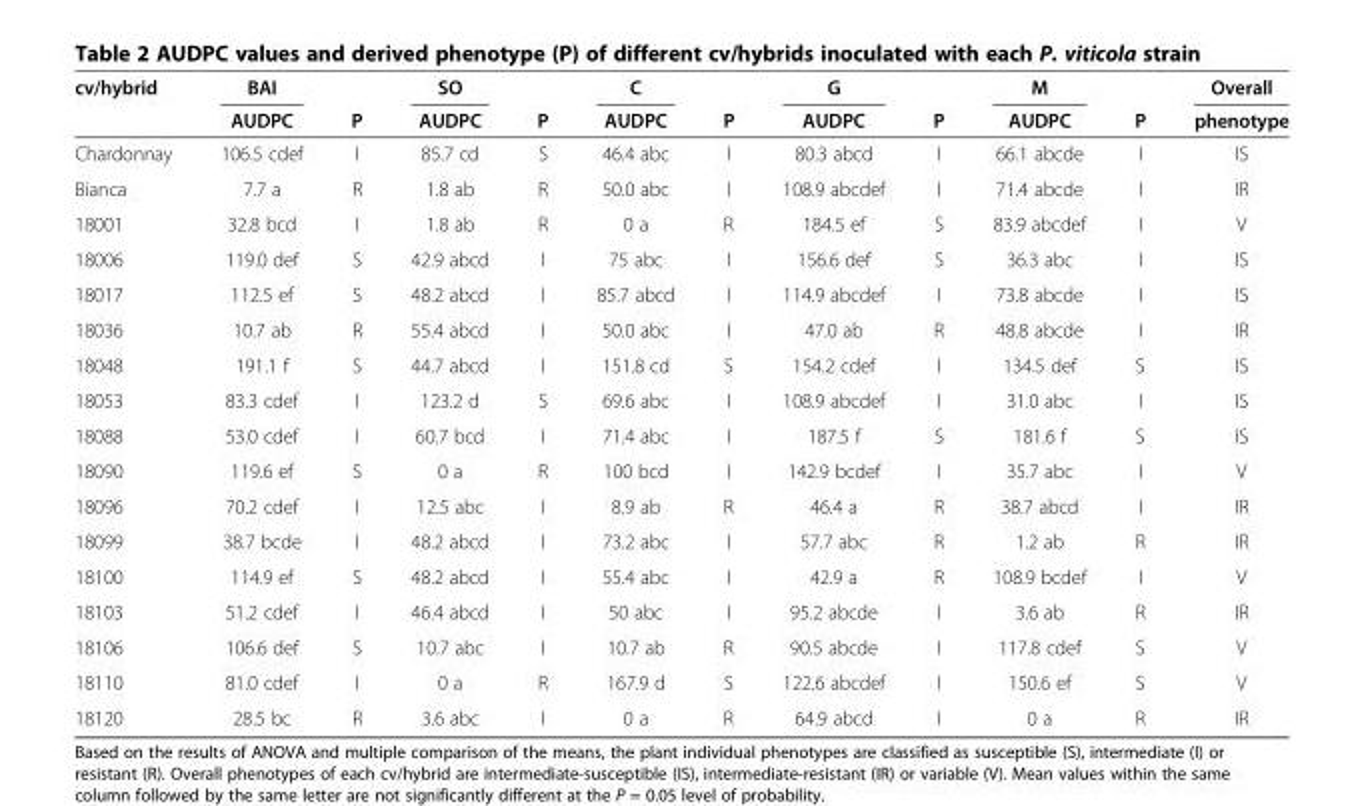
<table><thead><tr><td rowspan="2">cv/hybrid</td><td rowspan="2">BAI AUDPC</td><td rowspan="2">P</td><td rowspan="2">SO AUDPC</td><td rowspan="2">P</td><td rowspan="2">C AUDPC</td><td rowspan="2">P</td><td rowspan="2">G AUDPC</td><td rowspan="2">P</td><td rowspan="2">M AUDPC</td><td rowspan="2">P</td><td rowspan="2">Overall phenotype</td></tr><tr></tr></thead><tbody><tr><td>Chardonnay</td><td>106.5 cdef</td><td>I</td><td>85.7 cd</td><td>S</td><td>46.4 abc</td><td>I</td><td>80.3 abcd</td><td>I</td><td>66.1 abcde</td><td>I</td><td>IS</td></tr><tr><td>Bianca</td><td>7.7 a</td><td>R</td><td>1.8 ab</td><td>R</td><td>50.0 abc</td><td>I</td><td>108.9 abcdef</td><td>I</td><td>71.4 abcde</td><td>I</td><td>IR</td></tr><tr><td>18001</td><td>32.8 bcd</td><td>I</td><td>1.8 ab</td><td>R</td><td>0 a</td><td>R</td><td>184.5 ef</td><td>S</td><td>83.9 abcdef</td><td>I</td><td>V</td></tr><tr><td>18006</td><td>119.0 def</td><td>S</td><td>42.9 abcd</td><td>I</td><td>75 abc</td><td>I</td><td>156.6 def</td><td>S</td><td>36.3 abc</td><td>I</td><td>IS</td></tr><tr><td>18017</td><td>112.5 ef</td><td>S</td><td>48.2 abcd</td><td>I</td><td>85.7 abcd</td><td>I</td><td>114.9 abcdef</td><td>I</td><td>73.8 abcde</td><td>I</td><td>IS</td></tr><tr><td>18036</td><td>10.7 ab</td><td>R</td><td>55.4 abcd</td><td>I</td><td>50.0 abc</td><td>I</td><td>47.0 ab</td><td>R</td><td>48.8 abcde</td><td>I</td><td>IR</td></tr><tr><td>18048</td><td>191.1 f</td><td>S</td><td>44.7 abcd</td><td>I</td><td>151.8 cd</td><td>S</td><td>154.2 cdef</td><td>I</td><td>134.5 def</td><td>S</td><td>IS</td></tr><tr><td>18053</td><td>83.3 cdef</td><td>I</td><td>123.2 d</td><td>S</td><td>69.6 abc</td><td>I</td><td>108.9 abcdef</td><td>I</td><td>31.0 abc</td><td>I</td><td>IS</td></tr><tr><td>18088</td><td>53.0 cdef</td><td>I</td><td>60.7 bcd</td><td>I</td><td>71.4 abc</td><td>I</td><td>187.5 f</td><td>S</td><td>181.6 f</td><td>S</td><td>IS</td></tr><tr><td>18090</td><td>119.6 ef</td><td>S</td><td>0 a</td><td>R</td><td>100 bcd</td><td>I</td><td>142.9 bcdef</td><td>I</td><td>35.7 abc</td><td>I</td><td>V</td></tr><tr><td>18096</td><td>70.2 cdef</td><td>I</td><td>12.5 abc</td><td>I</td><td>8.9 ab</td><td>R</td><td>46.4 a</td><td>R</td><td>38.7 abcd</td><td>I</td><td>IR</td></tr><tr><td>18099</td><td>38.7 bcde</td><td>I</td><td>48.2 abcd</td><td>I</td><td>73.2 abc</td><td>I</td><td>57.7 abc</td><td>R</td><td>1.2 ab</td><td>R</td><td>IR</td></tr><tr><td>18100</td><td>114.9 ef</td><td>S</td><td>48.2 abcd</td><td>I</td><td>55.4 abc</td><td>I</td><td>42.9 a</td><td>R</td><td>108.9 bcdef</td><td>I</td><td>V</td></tr><tr><td>18103</td><td>51.2 cdef</td><td>I</td><td>46.4 abcd</td><td>I</td><td>50 abc</td><td>I</td><td>95.2 abcde</td><td>I</td><td>3.6 ab</td><td>R</td><td>IR</td></tr><tr><td>18106</td><td>106.6 def</td><td>S</td><td>10.7 abc</td><td>I</td><td>10.7 ab</td><td>R</td><td>90.5 abcde</td><td>I</td><td>117.8 cdef</td><td>S</td><td>V</td></tr><tr><td>18110</td><td>81.0 cdef</td><td>I</td><td>0 a</td><td>R</td><td>167.9 d</td><td>S</td><td>122.6 abcdef</td><td>I</td><td>150.6 ef</td><td>S</td><td>V</td></tr><tr><td>18120</td><td>28.5 bc</td><td>R</td><td>3.6 abc</td><td>I</td><td>0 a</td><td>R</td><td>64.9 abcd</td><td>I</td><td>0 a</td><td>R</td><td>IR</td></tr></tbody></table>